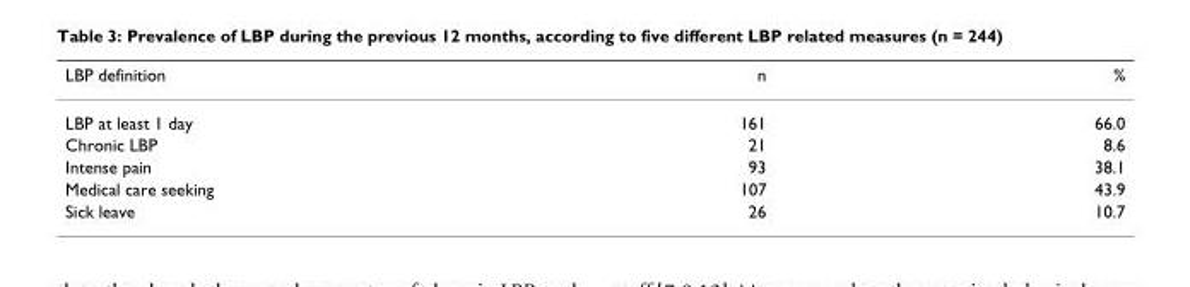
<table><thead><tr><td>LBP definition</td><td>n</td><td>%</td></tr></thead><tbody><tr><td>LBP at least 1 day</td><td>161</td><td>66.0</td></tr><tr><td>Chronic LBP</td><td>21</td><td>8.6</td></tr><tr><td>Intense pain</td><td>93</td><td>38.1</td></tr><tr><td>Medical care seeking</td><td>107</td><td>43.9</td></tr><tr><td>Sick leave</td><td>26</td><td>10.7</td></tr></tbody></table>